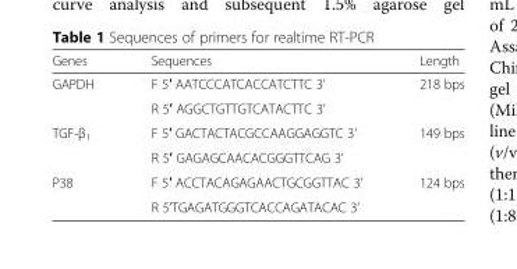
<table><thead><tr><td>Genes</td><td>Sequences</td><td>Length</td></tr></thead><tbody><tr><td rowspan="2">GAPDH</td><td>F 5′ AATCCCATCACCATCTTC 3’</td><td>218 bps</td></tr><tr><td>R 5′ AGGCTGTTGTCATACTTC 3’</td><td></td></tr><tr><td rowspan="2">TGF-β<sub>1</sub></td><td>F 5′ GACTACTACGCCAAGGAGGTC 3’</td><td>149 bps</td></tr><tr><td>R 5′ GAGAGCAACACGGGTTCAG 3’</td><td></td></tr><tr><td rowspan="2">P38</td><td>F 5′ ACCTACAGAGAACTGCGGTTAC 3’</td><td>124 bps</td></tr><tr><td>R 5’TGAGATGGGTCACCAGATACAC 3’</td><td></td></tr></tbody></table>